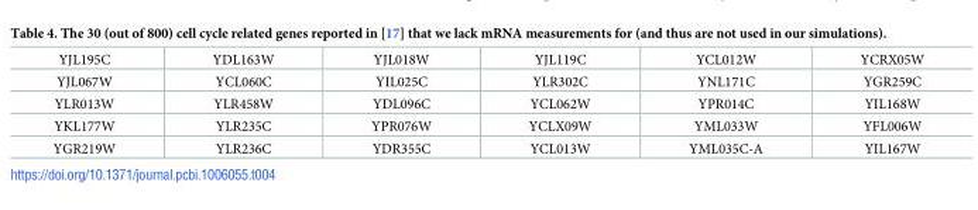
<table><tbody><tr><td>YJL195C</td><td>YDL163W</td><td>YJL018W</td><td>YJL119C</td><td>YCL012W</td><td>YCRX05W</td></tr><tr><td>YJL067W</td><td>YCL060C</td><td>YIL025C</td><td>YLR302C</td><td>YNL171C</td><td>YGR259C</td></tr><tr><td>YLR013W</td><td>YLR458W</td><td>YDL096C</td><td>YCL062W</td><td>YPR014C</td><td>YIL168W</td></tr><tr><td>YKL177W</td><td>YLR235C</td><td>YPR076W</td><td>YCLX09W</td><td>YML033W</td><td>YFL006W</td></tr><tr><td>YGR219W</td><td>YLR236C</td><td>YDR355C</td><td>YCL013W</td><td>YML035C-A</td><td>YIL167W</td></tr></tbody></table>